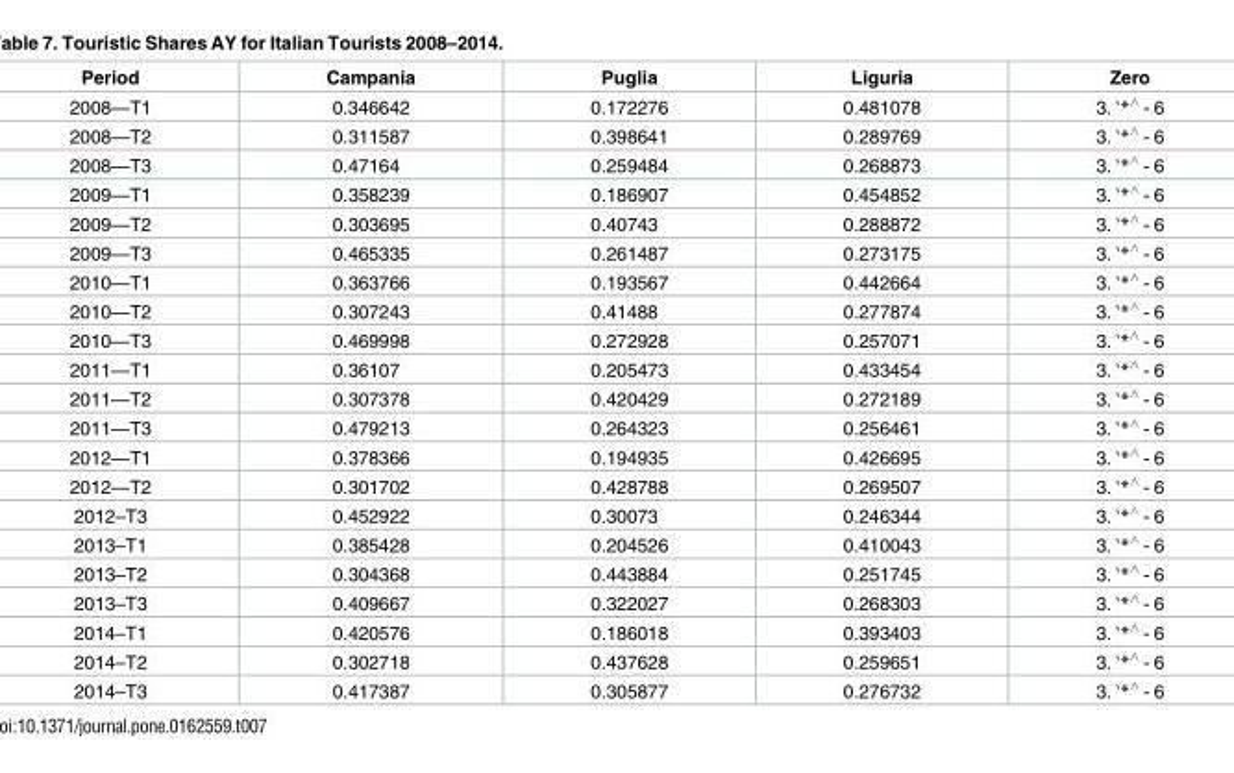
<table><thead><tr><td>Period</td><td>Campania</td><td>Puglia</td><td>Liguria</td><td>Zero</td></tr></thead><tbody><tr><td>2008—T1</td><td>0.346642</td><td>0.172276</td><td>0.481078</td><td>3. ‵*<sup>∧</sup> - 6</td></tr><tr><td>2008—T2</td><td>0.311587</td><td>0.398641</td><td>0.289769</td><td>3. ‵*<sup>∧</sup> - 6</td></tr><tr><td>2008—T3</td><td>0.47164</td><td>0.259484</td><td>0.268873</td><td>3. ‵*<sup>∧</sup> - 6</td></tr><tr><td>2009—T1</td><td>0.358239</td><td>0.186907</td><td>0.454852</td><td>3. ‵*<sup>∧</sup> - 6</td></tr><tr><td>2009—T2</td><td>0.303695</td><td>0.40743</td><td>0.288872</td><td>3. ‵*<sup>∧</sup> - 6</td></tr><tr><td>2009—T3</td><td>0.465335</td><td>0.261487</td><td>0.273175</td><td>3. ‵*<sup>∧</sup> - 6</td></tr><tr><td>2010—T1</td><td>0.363766</td><td>0.193567</td><td>0.442664</td><td>3. ‵*<sup>∧</sup> - 6</td></tr><tr><td>2010—T2</td><td>0.307243</td><td>0.41488</td><td>0.277874</td><td>3. ‵*<sup>∧</sup> - 6</td></tr><tr><td>2010—T3</td><td>0.469998</td><td>0.272928</td><td>0.257071</td><td>3. ‵*<sup>∧</sup> - 6</td></tr><tr><td>2011—T1</td><td>0.36107</td><td>0.205473</td><td>0.433454</td><td>3. ‵*<sup>∧</sup> - 6</td></tr><tr><td>2011—T2</td><td>0.307378</td><td>0.420429</td><td>0.272189</td><td>3. ‵*<sup>∧</sup> - 6</td></tr><tr><td>2011—T3</td><td>0.479213</td><td>0.264323</td><td>0.256461</td><td>3. ‵*<sup>∧</sup> - 6</td></tr><tr><td>2012—T1</td><td>0.378366</td><td>0.194935</td><td>0.426695</td><td>3. ‵*<sup>∧</sup> - 6</td></tr><tr><td>2012—T2</td><td>0.301702</td><td>0.428788</td><td>0.269507</td><td>3. ‵*<sup>∧</sup> - 6</td></tr><tr><td>2012–T3</td><td>0.452922</td><td>0.30073</td><td>0.246344</td><td>3. ‵*<sup>∧</sup> - 6</td></tr><tr><td>2013–T1</td><td>0.385428</td><td>0.204526</td><td>0.410043</td><td>3. ‵*<sup>∧</sup> - 6</td></tr><tr><td>2013–T2</td><td>0.304368</td><td>0.443884</td><td>0.251745</td><td>3. ‵*<sup>∧</sup> - 6</td></tr><tr><td>2013–T3</td><td>0.409667</td><td>0.322027</td><td>0.268303</td><td>3. ‵*<sup>∧</sup> - 6</td></tr><tr><td>2014–T1</td><td>0.420576</td><td>0.186018</td><td>0.393403</td><td>3. ‵*<sup>∧</sup> - 6</td></tr><tr><td>2014–T2</td><td>0.302718</td><td>0.437628</td><td>0.259651</td><td>3. ‵*<sup>∧</sup> - 6</td></tr><tr><td>2014–T3</td><td>0.417387</td><td>0.305877</td><td>0.276732</td><td>3. ‵*<sup>∧</sup> - 6</td></tr></tbody></table>